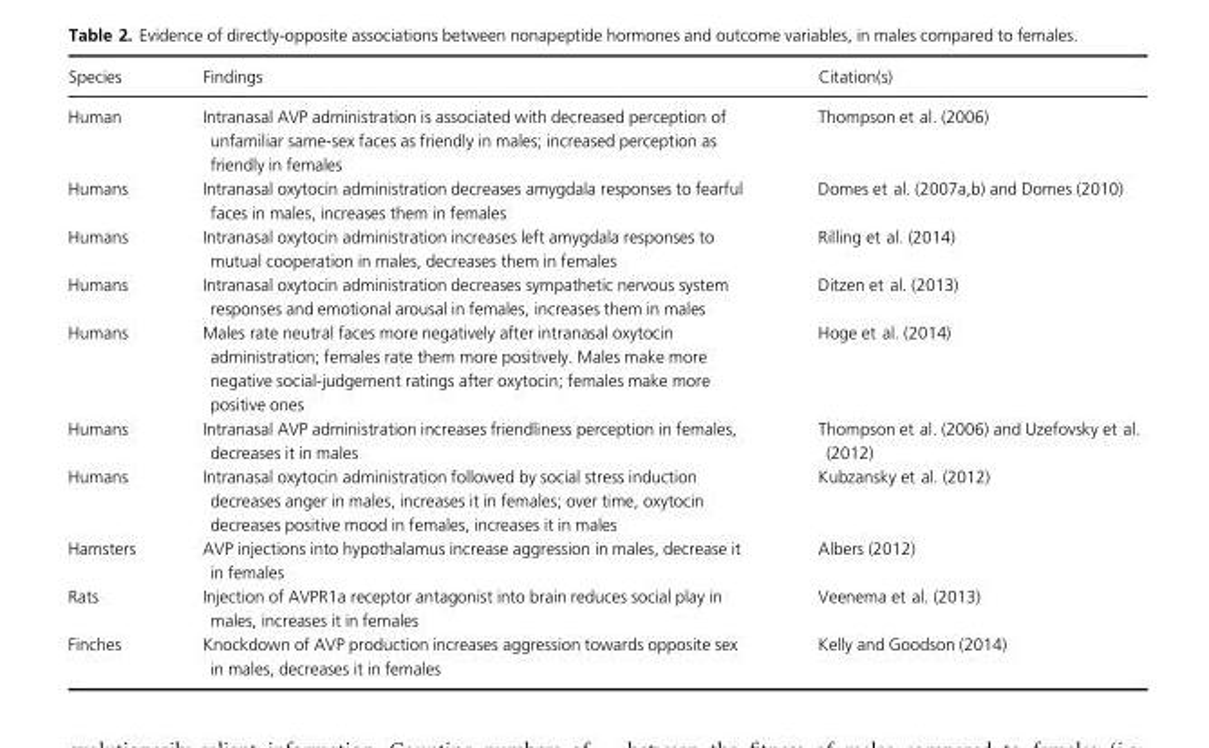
<table><thead><tr><td>Species</td><td>Findings</td><td>Citation(s)</td></tr></thead><tbody><tr><td>Human</td><td>Intranasal AVP administration is associated with decreased perception of unfamiliar same-sex faces as friendly in males; increased perception as friendly in females</td><td>Thompson et al. (2006)</td></tr><tr><td>Humans</td><td>Intranasal oxytocin administration decreases amygdala responses to fearful faces in males, increases them in females</td><td>Domes et al. (2007a,b) and Domes (2010)</td></tr><tr><td>Humans</td><td>Intranasal oxytocin administration increases left amygdala responses to mutual cooperation in males, decreases them in females</td><td>Rilling et al. (2014)</td></tr><tr><td>Humans</td><td>Intranasal oxytocin administration decreases sympathetic nervous system responses and emotional arousal in females, increases them in males</td><td>Ditzen et al. (2013)</td></tr><tr><td>Humans</td><td>Males rate neutral faces more negatively after intranasal oxytocin administration; females rate them more positively. Males make more negative social-judgement ratings after oxytocin; females make more positive ones</td><td>Hoge et al. (2014)</td></tr><tr><td>Humans</td><td>Intranasal AVP administration increases friendliness perception in females, decreases it in males</td><td>Thompson et al. (2006) and Uzefovsky et al. (2012)</td></tr><tr><td>Humans</td><td>Intranasal oxytocin administration followed by social stress induction decreases anger in males, increases it in females; over time, oxytocin decreases positive mood in females, increases it in males</td><td>Kubzansky et al. (2012)</td></tr><tr><td>Hamsters</td><td>AVP injections into hypothalamus increase aggression in males, decrease it in females</td><td>Albers (2012)</td></tr><tr><td>Rats</td><td>Injection of AVPR1a receptor antagonist into brain reduces social play in males, increases it in females</td><td>Veenema et al. (2013)</td></tr><tr><td>Finches</td><td>Knockdown of AVP production increases aggression towards opposite sex in males, decreases it in females</td><td>Kelly and Goodson (2014)</td></tr></tbody></table>